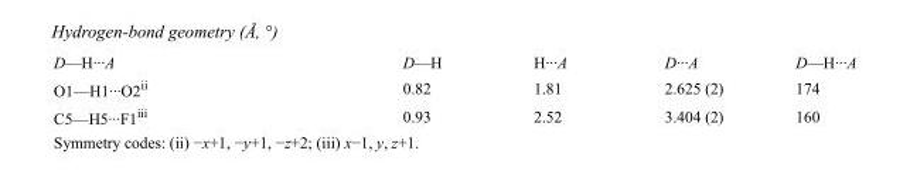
<table><tbody><tr><td>D—H···A</td><td>D—H</td><td>H···A</td><td>D···A</td><td>D—H···A</td></tr><tr><td>O1—H1···O2<sup>ii</sup></td><td>0.82</td><td>1.81</td><td>2.625 (2)</td><td>174</td></tr><tr><td>C5—H5···F1<sup>iii</sup></td><td>0.93</td><td>2.52</td><td>3.404 (2)</td><td>160</td></tr></tbody></table>